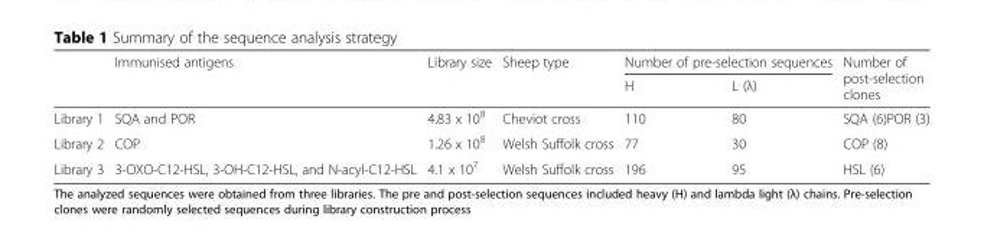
<table><thead><tr><td rowspan="2"></td><td rowspan="2">Immunised antigens</td><td rowspan="2">Library size</td><td rowspan="2">Sheep type</td><td colspan="2">Number of pre-selection sequences</td><td rowspan="2">Number of post-selection clones</td></tr><tr><td>H</td><td>L (λ)</td></tr></thead><tbody><tr><td>Library 1</td><td>SQA and POR</td><td>4.83 x 10<sup>8</sup></td><td>Cheviot cross</td><td>110</td><td>80</td><td>SQA (6)POR (3)</td></tr><tr><td>Library 2</td><td>COP</td><td>1.26 x 10<sup>8</sup></td><td>Welsh Suffolk cross</td><td>77</td><td>30</td><td>COP (8)</td></tr><tr><td>Library 3</td><td>3-OXO-C12-HSL, 3-OH-C12-HSL, and N-acyl-C12-HSL</td><td>4.1 x 10<sup>7</sup></td><td>Welsh Suffolk cross</td><td>196</td><td>95</td><td>HSL (6)</td></tr></tbody></table>